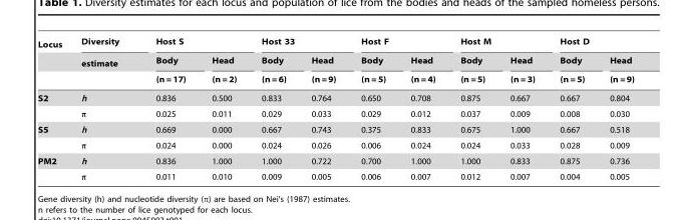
<table><thead><tr><td rowspan="3">Locus</td><td rowspan="3">Diversity estimate</td><td colspan="2">Host S</td><td colspan="2">Host 33</td><td colspan="2">Host F</td><td colspan="2">Host M</td><td colspan="2">Host D</td></tr><tr><td rowspan="2">Body (n = 17)</td><td rowspan="2">Head (n = 2)</td><td rowspan="2">Body (n = 6)</td><td rowspan="2">Head (n = 9)</td><td rowspan="2">Body (n = 5)</td><td rowspan="2">Head (n = 4)</td><td rowspan="2">Body (n = 5)</td><td rowspan="2">Head (n = 3)</td><td rowspan="2">Body (n = 5)</td><td rowspan="2">Head (n = 9)</td></tr><tr></tr></thead><tbody><tr><td rowspan="2">S2</td><td>h</td><td>0.836</td><td>0.500</td><td>0.833</td><td>0.764</td><td>0.650</td><td>0.708</td><td>0.875</td><td>0.667</td><td>0.667</td><td>0.804</td></tr><tr><td>π</td><td>0.025</td><td>0.011</td><td>0.029</td><td>0.033</td><td>0.029</td><td>0.012</td><td>0.037</td><td>0.009</td><td>0.008</td><td>0.030</td></tr><tr><td rowspan="2">S5</td><td>h</td><td>0.669</td><td>0.000</td><td>0.667</td><td>0.743</td><td>0.375</td><td>0.833</td><td>0.675</td><td>1.000</td><td>0.667</td><td>0.518</td></tr><tr><td>π</td><td>0.024</td><td>0.000</td><td>0.024</td><td>0.026</td><td>0.006</td><td>0.024</td><td>0.024</td><td>0.033</td><td>0.028</td><td>0.009</td></tr><tr><td rowspan="2">PM2</td><td>h</td><td>0.836</td><td>1.000</td><td>1.000</td><td>0.722</td><td>0.700</td><td>1.000</td><td>1.000</td><td>0.833</td><td>0.875</td><td>0.736</td></tr><tr><td>π</td><td>0.011</td><td>0.010</td><td>0.009</td><td>0.005</td><td>0.006</td><td>0.007</td><td>0.012</td><td>0.007</td><td>0.004</td><td>0.005</td></tr></tbody></table>